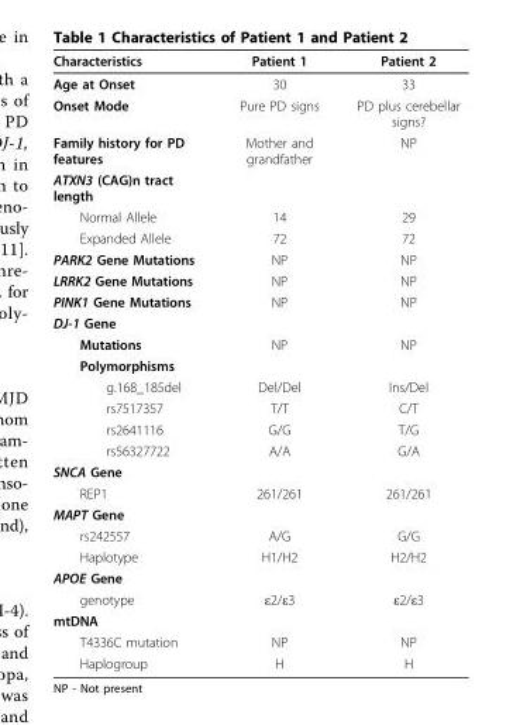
<table><thead><tr><td>Characteristics</td><td>Patient 1</td><td>Patient 2</td></tr></thead><tbody><tr><td>Age at Onset</td><td>30</td><td>33</td></tr><tr><td>Onset Mode</td><td>Pure PD signs</td><td>PD plus cerebellar signs?</td></tr><tr><td>Family history for PD features</td><td>Mother and grandfather</td><td>NP</td></tr><tr><td colspan="3">ATXN3 (CAG)n tract length</td></tr><tr><td>Normal Allele</td><td>14</td><td>29</td></tr><tr><td>Expanded Allele</td><td>72</td><td>72</td></tr><tr><td>PARK2 Gene Mutations</td><td>NP</td><td>NP</td></tr><tr><td>LRRK2 Gene Mutations</td><td>NP</td><td>NP</td></tr><tr><td>PINK1 Gene Mutations</td><td>NP</td><td>NP</td></tr><tr><td colspan="3">DJ-1 Gene</td></tr><tr><td>Mutations</td><td>NP</td><td>NP</td></tr><tr><td colspan="3">Polymorphisms</td></tr><tr><td>g.168_185del</td><td>Del/Del</td><td>Ins/Del</td></tr><tr><td>rs7517357</td><td>T/T</td><td>C/T</td></tr><tr><td>rs2641116</td><td>G/G</td><td>T/G</td></tr><tr><td>rs56327722</td><td>A/A</td><td>G/A</td></tr><tr><td colspan="3">SNCA Gene</td></tr><tr><td>REP1</td><td>261/261</td><td>261/261</td></tr><tr><td colspan="3">MAPT Gene</td></tr><tr><td>rs242557</td><td>A/G</td><td>G/G</td></tr><tr><td>Haplotype</td><td>H1/H2</td><td>H2/H2</td></tr><tr><td colspan="3">APOE Gene</td></tr><tr><td>genotype</td><td>ε2/ε3</td><td>ε2/ε3</td></tr><tr><td colspan="3">mtDNA</td></tr><tr><td>T4336C mutation</td><td>NP</td><td>NP</td></tr><tr><td>Haplogroup</td><td>H</td><td>H</td></tr></tbody></table>